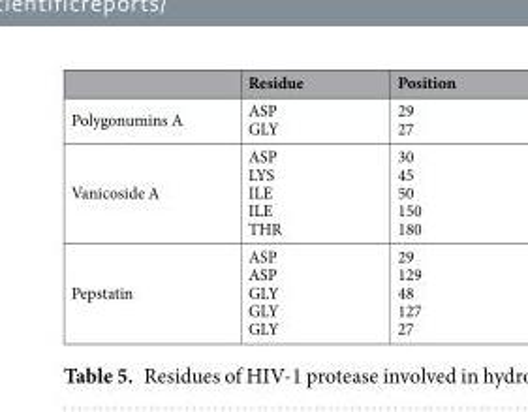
<table><thead><tr><td></td><td>Residue</td><td>Position</td></tr></thead><tbody><tr><td>Polygonumins A</td><td>ASP GLY</td><td>29 27</td></tr><tr><td>Vanicoside A</td><td>ASP LYS ILE ILE THR</td><td>30 45 50 150 180</td></tr><tr><td>Pepstatin</td><td>ASP ASP GLY GLY GLY</td><td>29 129 48 127 27</td></tr></tbody></table>